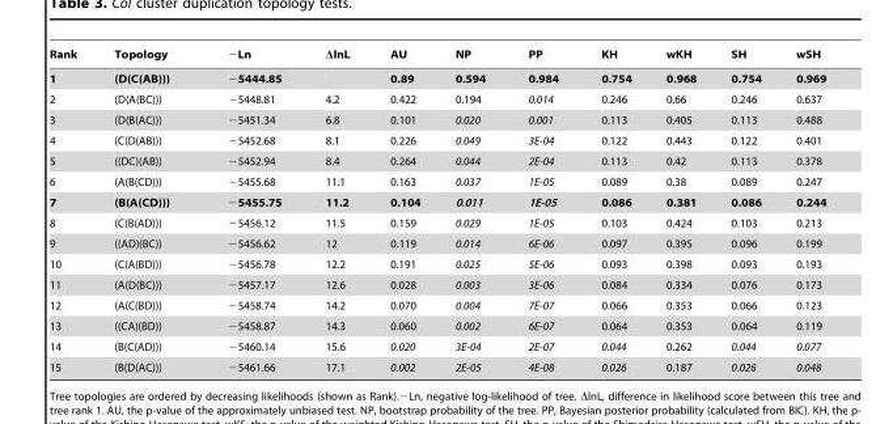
<table><thead><tr><td>Rank</td><td>Topology</td><td>−Ln</td><td>ΔlnL</td><td>AU</td><td>NP</td><td>PP</td><td>KH</td><td>wKH</td><td>SH</td><td>wSH</td></tr></thead><tbody><tr><td>1</td><td>(D(C(AB)))</td><td>−5444.85</td><td></td><td>0.89</td><td>0.594</td><td>0.984</td><td>0.754</td><td>0.968</td><td>0.754</td><td>0.969</td></tr><tr><td>2</td><td>(D(A(BC)))</td><td>−5448.81</td><td>4.2</td><td>0.422</td><td>0.194</td><td>0.014</td><td>0.246</td><td>0.66</td><td>0.246</td><td>0.637</td></tr><tr><td>3</td><td>(D(B(AC)))</td><td>−5451.34</td><td>6.8</td><td>0.101</td><td>0.020</td><td>0.001</td><td>0.113</td><td>0.405</td><td>0.113</td><td>0.488</td></tr><tr><td>4</td><td>(C(D(AB)))</td><td>−5452.68</td><td>8.1</td><td>0.226</td><td>0.049</td><td>3E-04</td><td>0.122</td><td>0.443</td><td>0.122</td><td>0.401</td></tr><tr><td>5</td><td>((DC)(AB))</td><td>−5452.94</td><td>8.4</td><td>0.264</td><td>0.044</td><td>2E-04</td><td>0.113</td><td>0.42</td><td>0.113</td><td>0.378</td></tr><tr><td>6</td><td>(A(B(CD)))</td><td>−5455.68</td><td>11.1</td><td>0.163</td><td>0.037</td><td>1E-05</td><td>0.089</td><td>0.38</td><td>0.089</td><td>0.247</td></tr><tr><td>7</td><td>(B(A(CD)))</td><td>−5455.75</td><td>11.2</td><td>0.104</td><td>0.011</td><td>1E-05</td><td>0.086</td><td>0.381</td><td>0.086</td><td>0.244</td></tr><tr><td>8</td><td>(C(B(AD)))</td><td>−5456.12</td><td>11.5</td><td>0.159</td><td>0.029</td><td>1E-05</td><td>0.103</td><td>0.424</td><td>0.103</td><td>0.213</td></tr><tr><td>9</td><td>((AD)(BC))</td><td>−5456.62</td><td>12</td><td>0.119</td><td>0.014</td><td>6E-06</td><td>0.097</td><td>0.395</td><td>0.096</td><td>0.199</td></tr><tr><td>10</td><td>(C(A(BD)))</td><td>−5456.78</td><td>12.2</td><td>0.191</td><td>0.025</td><td>5E-06</td><td>0.093</td><td>0.398</td><td>0.093</td><td>0.193</td></tr><tr><td>11</td><td>(A(D(BC)))</td><td>−5457.17</td><td>12.6</td><td>0.028</td><td>0.003</td><td>3E-06</td><td>0.084</td><td>0.334</td><td>0.076</td><td>0.173</td></tr><tr><td>12</td><td>(A(C(BD)))</td><td>−5458.74</td><td>14.2</td><td>0.070</td><td>0.004</td><td>7E-07</td><td>0.066</td><td>0.353</td><td>0.066</td><td>0.123</td></tr><tr><td>13</td><td>((CA)(BD))</td><td>−5458.87</td><td>14.3</td><td>0.060</td><td>0.002</td><td>6E-07</td><td>0.064</td><td>0.353</td><td>0.064</td><td>0.119</td></tr><tr><td>14</td><td>(B(C(AD)))</td><td>−5460.14</td><td>15.6</td><td>0.020</td><td>3E-04</td><td>2E-07</td><td>0.044</td><td>0.262</td><td>0.044</td><td>0.077</td></tr><tr><td>15</td><td>(B(D(AC)))</td><td>−5461.66</td><td>17.1</td><td>0.002</td><td>2E-05</td><td>4E-08</td><td>0.026</td><td>0.187</td><td>0.026</td><td>0.048</td></tr></tbody></table>